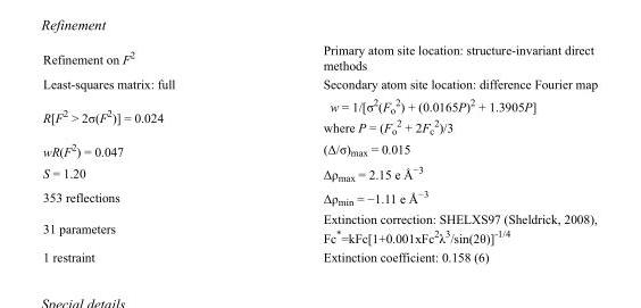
<table><tbody><tr><td>Refinement on F<sup>2</sup></td><td>Primary atom site location: structure-invariant direct methods</td></tr><tr><td>Least-squares matrix: full</td><td>Secondary atom site location: difference Fourier map</td></tr><tr><td>R[F<sup>2</sup> &gt; 2σ(F<sup>2</sup>)] = 0.024</td><td>w = 1/[σ<sup>2</sup>(F<sub>o</sub> <sup>2</sup>) + (0.0165P)<sup>2</sup> + 1.3905P] where P = (F<sub>o</sub> <sup>2</sup> + 2F<sub>c</sub> <sup>2</sup>)/3</td></tr><tr><td>wR(F<sup>2</sup>) = 0.047</td><td>(Δ/σ)<sub>max</sub> = 0.015</td></tr><tr><td>S = 1.20</td><td>Δρ<sub>max</sub> = 2.15 e Å<sup>−3</sup></td></tr><tr><td>353 reflections</td><td>Δρ<sub>min</sub> = −1.11 e Å<sup>−3</sup></td></tr><tr><td>31 parameters</td><td>Extinction correction: SHELXS97 (Sheldrick, 2008), Fc*=kFc[1+0.001xFc<sup>2</sup>λ<sup>3</sup>/sin(2θ)]<sup>-1/4</sup></td></tr><tr><td>1 restraint</td><td>Extinction coefficient: 0.158 (6)</td></tr></tbody></table>